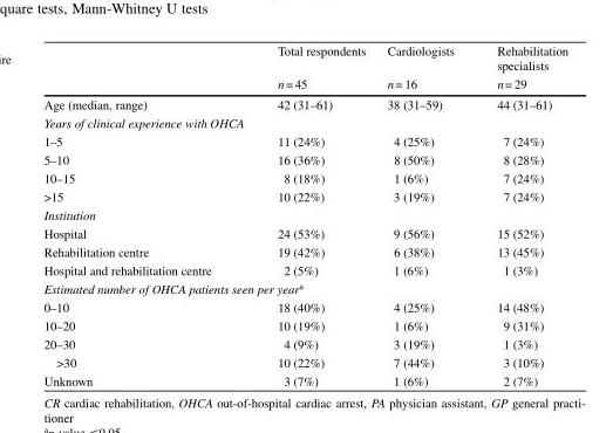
<table><thead><tr><td rowspan="2"></td><td rowspan="2">Total respondents n= 45</td><td rowspan="2">Cardiologists n= 16</td><td rowspan="2">Rehabilitation specialists n= 29</td></tr><tr></tr></thead><tbody><tr><td>Age (median, range)</td><td>42 (31–61)</td><td>38 (31–59)</td><td>44 (31–61)</td></tr><tr><td colspan="4">Years of clinical experience with OHCA</td></tr><tr><td>1–5</td><td>11 (24%)</td><td>4 (25%)</td><td>7 (24%)</td></tr><tr><td>5–10</td><td>16 (36%)</td><td>8 (50%)</td><td>8 (28%)</td></tr><tr><td>10–15</td><td>8 (18%)</td><td>1 (6%)</td><td>7 (24%)</td></tr><tr><td>&gt;15</td><td>10 (22%)</td><td>3 (19%)</td><td>7 (24%)</td></tr><tr><td colspan="4">Institution</td></tr><tr><td>Hospital</td><td>24 (53%)</td><td>9 (56%)</td><td>15 (52%)</td></tr><tr><td>Rehabilitation centre</td><td>19 (42%)</td><td>6 (38%)</td><td>13 (45%)</td></tr><tr><td>Hospital and rehabilitation centre</td><td>2 (5%)</td><td>1 (6%)</td><td>1 (3%)</td></tr><tr><td colspan="4">Estimated number of OHCA patients seen per year<sup>a</sup></td></tr><tr><td>0–10</td><td>18 (40%)</td><td>4 (25%)</td><td>14 (48%)</td></tr><tr><td>10–20</td><td>10 (19%)</td><td>1 (6%)</td><td>9 (31%)</td></tr><tr><td>20–30</td><td>4 (9%)</td><td>3 (19%)</td><td>1 (3%)</td></tr><tr><td>&gt;30</td><td>10 (22%)</td><td>7 (44%)</td><td>3 (10%)</td></tr><tr><td>Unknown</td><td>3 (7%)</td><td>1 (6%)</td><td>2 (7%)</td></tr></tbody></table>